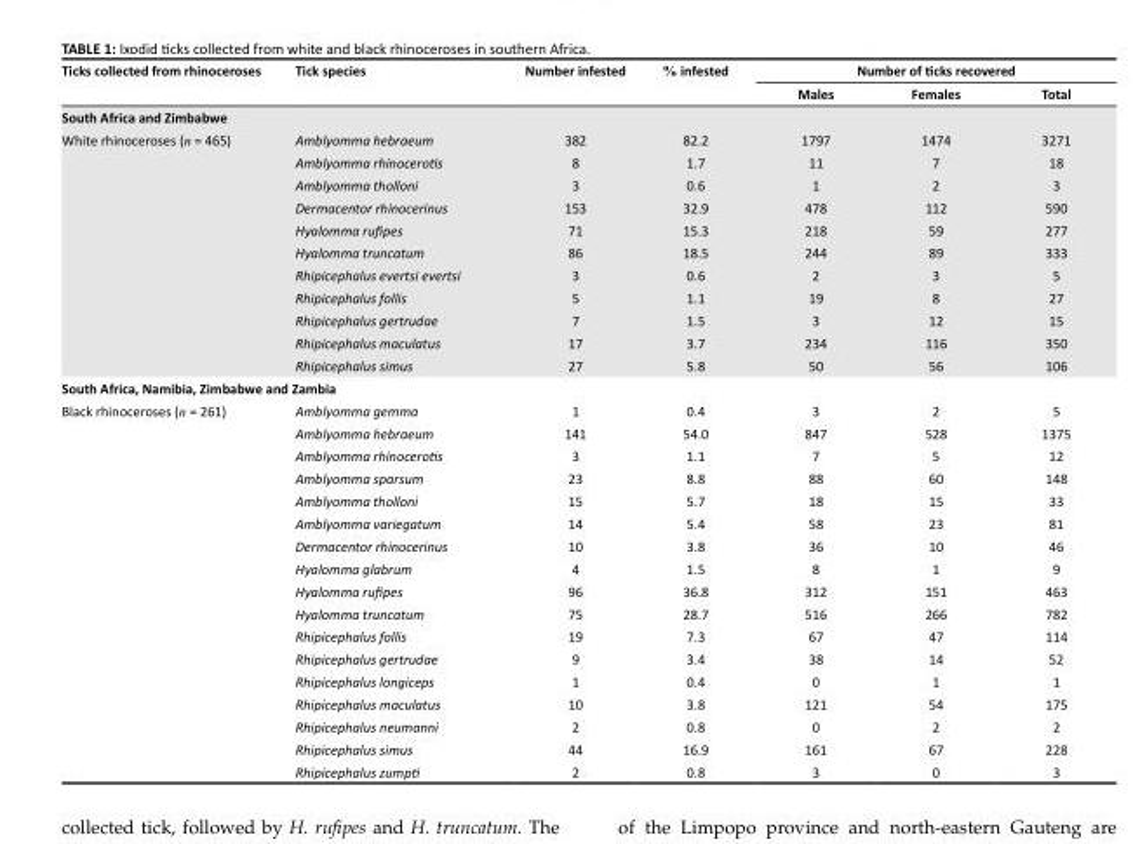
<table><thead><tr><td rowspan="2">Ticks collected from rhinoceroses</td><td rowspan="2">Tick species</td><td rowspan="2">Number infested</td><td rowspan="2">% infested</td><td colspan="3">Number of ticks recovered</td></tr><tr><td>Males</td><td>Females</td><td>Total</td></tr></thead><tbody><tr><td colspan="7">South Africa and Zimbabwe</td></tr><tr><td rowspan="11">White rhinoceroses (n = 465)</td><td>Amblyomma hebraeum</td><td>382</td><td>82.2</td><td>1797</td><td>1474</td><td>3271</td></tr><tr><td>Amblyomma rhinocerotis</td><td>8</td><td>1.7</td><td>11</td><td>7</td><td>18</td></tr><tr><td>Amblyomma tholloni</td><td>3</td><td>0.6</td><td>1</td><td>2</td><td>3</td></tr><tr><td>Dermacentor rhinocerinus</td><td>153</td><td>32.9</td><td>478</td><td>112</td><td>590</td></tr><tr><td>Hyalomma rufipes</td><td>71</td><td>15.3</td><td>218</td><td>59</td><td>277</td></tr><tr><td>Hyalomma truncatum</td><td>86</td><td>18.5</td><td>244</td><td>89</td><td>333</td></tr><tr><td>Rhipicephalus evertsi evertsi</td><td>3</td><td>0.6</td><td>2</td><td>3</td><td>5</td></tr><tr><td>Rhipicephalus follis</td><td>5</td><td>1.1</td><td>19</td><td>8</td><td>27</td></tr><tr><td>Rhipicephalus gertrudae</td><td>7</td><td>1.5</td><td>3</td><td>12</td><td>15</td></tr><tr><td>Rhipicephalus maculatus</td><td>17</td><td>3.7</td><td>234</td><td>116</td><td>350</td></tr><tr><td>Rhipicephalus simus</td><td>27</td><td>5.8</td><td>50</td><td>56</td><td>106</td></tr><tr><td colspan="7">South Africa, Namibia, Zimbabwe and Zambia</td></tr><tr><td rowspan="17">Black rhinoceroses (n = 261)</td><td>Amblyomma gemma</td><td>1</td><td>0.4</td><td>3</td><td>2</td><td>5</td></tr><tr><td>Amblyomma hebraeum</td><td>141</td><td>54.0</td><td>847</td><td>528</td><td>1375</td></tr><tr><td>Amblyomma rhinocerotis</td><td>3</td><td>1.1</td><td>7</td><td>5</td><td>12</td></tr><tr><td>Amblyomma sparsum</td><td>23</td><td>8.8</td><td>88</td><td>60</td><td>148</td></tr><tr><td>Amblyomma tholloni</td><td>15</td><td>5.7</td><td>18</td><td>15</td><td>33</td></tr><tr><td>Amblyomma variegatum</td><td>14</td><td>5.4</td><td>58</td><td>23</td><td>81</td></tr><tr><td>Dermacentor rhinocerinus</td><td>10</td><td>3.8</td><td>36</td><td>10</td><td>46</td></tr><tr><td>Hyalomma glabrum</td><td>4</td><td>1.5</td><td>8</td><td>1</td><td>9</td></tr><tr><td>Hyalomma rufipes</td><td>96</td><td>36.8</td><td>312</td><td>151</td><td>463</td></tr><tr><td>Hyalomma truncatum</td><td>75</td><td>28.7</td><td>516</td><td>266</td><td>782</td></tr><tr><td>Rhipicephalus follis</td><td>19</td><td>7.3</td><td>67</td><td>47</td><td>114</td></tr><tr><td>Rhipicephalus gertrudae</td><td>9</td><td>3.4</td><td>38</td><td>14</td><td>52</td></tr><tr><td>Rhipicephalus longiceps</td><td>1</td><td>0.4</td><td>0</td><td>1</td><td>1</td></tr><tr><td>Rhipicephalus maculatus</td><td>10</td><td>3.8</td><td>121</td><td>54</td><td>175</td></tr><tr><td>Rhipicephalus neumanni</td><td>2</td><td>0.8</td><td>0</td><td>2</td><td>2</td></tr><tr><td>Rhipicephalus simus</td><td>44</td><td>16.9</td><td>161</td><td>67</td><td>228</td></tr><tr><td>Rhipicephalus zumpti</td><td>2</td><td>0.8</td><td>3</td><td>0</td><td>3</td></tr></tbody></table>